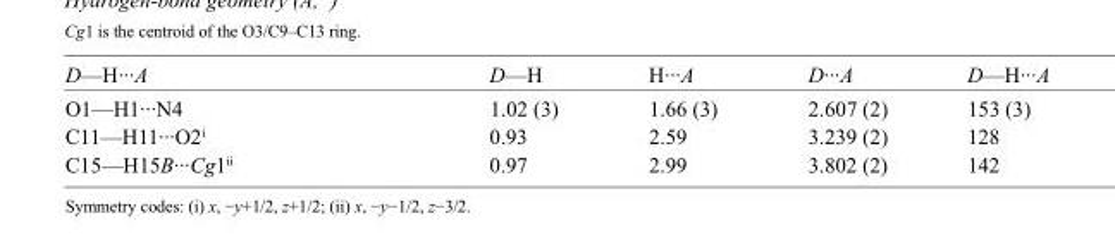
<table><tbody><tr><td>D—H···A</td><td>D—H</td><td>H···A</td><td>D···A</td><td>D—H···A</td></tr><tr><td>O1—H1···N4</td><td>1.02 (3)</td><td>1.66 (3)</td><td>2.607 (2)</td><td>153 (3)</td></tr><tr><td>C11—H11···O2<sup>i</sup></td><td>0.93</td><td>2.59</td><td>3.239 (2)</td><td>128</td></tr><tr><td>C15—H15B···Cg1<sup>ii</sup></td><td>0.97</td><td>2.99</td><td>3.802 (2)</td><td>142</td></tr></tbody></table>